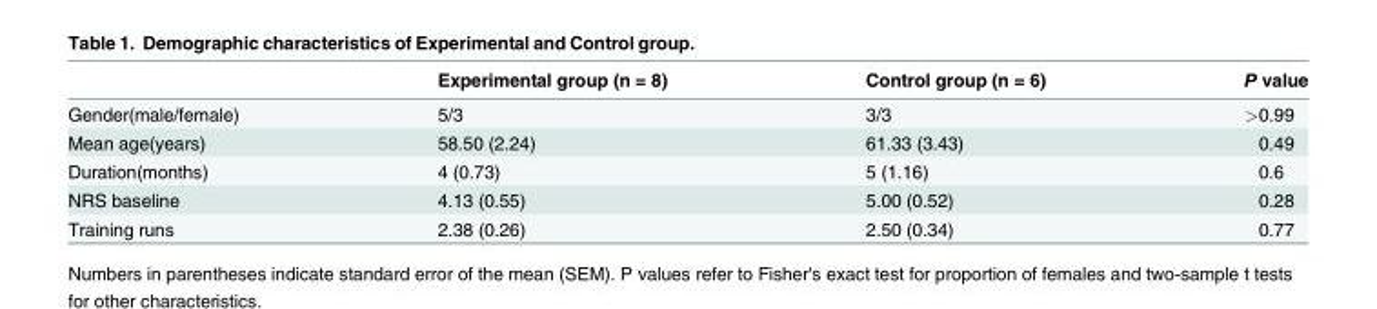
<table><thead><tr><td></td><td>Experimental group (n = 8)</td><td>Control group (n = 6)</td><td>P value</td></tr></thead><tbody><tr><td>Gender(male/female)</td><td>5/3</td><td>3/3</td><td>&gt;0.99</td></tr><tr><td>Mean age(years)</td><td>58.50 (2.24)</td><td>61.33 (3.43)</td><td>0.49</td></tr><tr><td>Duration(months)</td><td>4 (0.73)</td><td>5 (1.16)</td><td>0.6</td></tr><tr><td>NRS baseline</td><td>4.13 (0.55)</td><td>5.00 (0.52)</td><td>0.28</td></tr><tr><td>Training runs</td><td>2.38 (0.26)</td><td>2.50 (0.34)</td><td>0.77</td></tr></tbody></table>